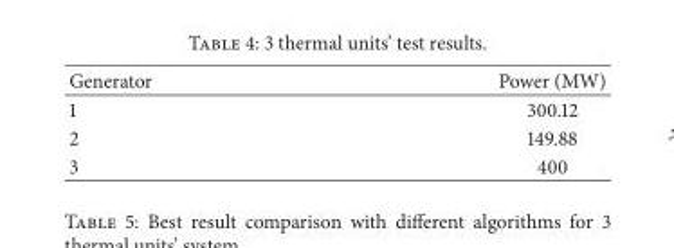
<table><thead><tr><td>Generator</td><td>Power (MW)</td></tr></thead><tbody><tr><td>1</td><td>300.12</td></tr><tr><td>2</td><td>149.88</td></tr><tr><td>3</td><td>400</td></tr></tbody></table>